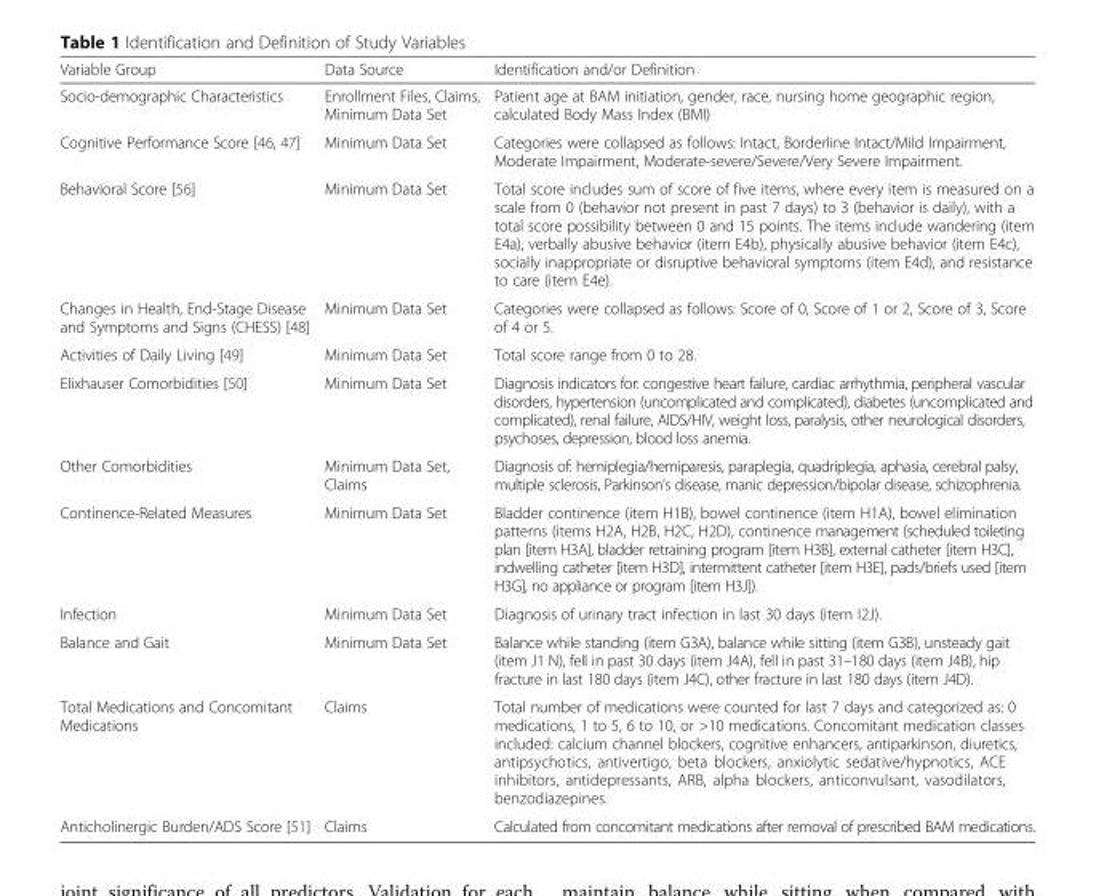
<table><thead><tr><td>Variable Group</td><td>Data Source</td><td>Identification and/or Definition</td></tr></thead><tbody><tr><td>Socio-demographic Characteristics</td><td>Enrollment Files, Claims, Minimum Data Set</td><td>Patient age at BAM initiation, gender, race, nursing home geographic region, calculated Body Mass Index (BMI)</td></tr><tr><td>Cognitive Performance Score [46, 47]</td><td>Minimum Data Set</td><td>Categories were collapsed as follows: Intact, Borderline Intact/Mild Impairment, Moderate Impairment, Moderate-severe/Severe/Very Severe Impairment.</td></tr><tr><td>Behavioral Score [56]</td><td>Minimum Data Set</td><td>Total score includes sum of score of five items, where every item is measured on a scale from 0 (behavior not present in past 7 days) to 3 (behavior is daily), with a total score possibility between 0 and 15 points. The items include wandering (item E4a), verbally abusive behavior (item E4b), physically abusive behavior (item E4c), socially inappropriate or disruptive behavioral symptoms (item E4d), and resistance to care (item E4e).</td></tr><tr><td>Changes in Health, End-Stage Disease and Symptoms and Signs (CHESS) [48]</td><td>Minimum Data Set</td><td>Categories were collapsed as follows: Score of 0, Score of 1 or 2, Score of 3, Score of 4 or 5.</td></tr><tr><td>Activities of Daily Living [49]</td><td>Minimum Data Set</td><td>Total score range from 0 to 28.</td></tr><tr><td>Elixhauser Comorbidities [50]</td><td>Minimum Data Set</td><td>Diagnosis indicators for: congestive heart failure, cardiac arrhythmia, peripheral vascular disorders, hypertension (uncomplicated and complicated), diabetes (uncomplicated and complicated), renal failure, AIDS/HIV, weight loss, paralysis, other neurological disorders, psychoses, depression, blood loss anemia.</td></tr><tr><td>Other Comorbidities</td><td>Minimum Data Set, Claims</td><td>Diagnosis of: hemiplegia/hemiparesis, paraplegia, quadriplegia, aphasia, cerebral palsy, multiple sclerosis, Parkinson’s disease, manic depression/bipolar disease, schizophrenia.</td></tr><tr><td>Continence-Related Measures</td><td>Minimum Data Set</td><td>Bladder continence (item H1B), bowel continence (item H1A), bowel elimination patterns (items H2A, H2B, H2C, H2D), continence management (scheduled toileting plan [item H3A], bladder retraining program [item H3B], external catheter [item H3C], indwelling catheter [item H3D], intermittent catheter [item H3E], pads/briefs used [item H3G], no appliance or program [item H3J]).</td></tr><tr><td>Infection</td><td>Minimum Data Set</td><td>Diagnosis of urinary tract infection in last 30 days (item I2J).</td></tr><tr><td>Balance and Gait</td><td>Minimum Data Set</td><td>Balance while standing (item G3A), balance while sitting (item G3B), unsteady gait (item J1 N), fell in past 30 days (item J4A), fell in past 31–180 days (item J4B), hip fracture in last 180 days (item J4C), other fracture in last 180 days (item J4D).</td></tr><tr><td>Total Medications and Concomitant Medications</td><td>Claims</td><td>Total number of medications were counted for last 7 days and categorized as: 0 medications, 1 to 5, 6 to 10, or &gt;10 medications. Concomitant medication classes included: calcium channel blockers, cognitive enhancers, antiparkinson, diuretics, antipsychotics, antivertigo, beta blockers, anxiolytic sedative/hypnotics, ACE inhibitors, antidepressants, ARB, alpha blockers, anticonvulsant, vasodilators, benzodiazepines.</td></tr><tr><td>Anticholinergic Burden/ADS Score [51]</td><td>Claims</td><td>Calculated from concomitant medications after removal of prescribed BAM medications.</td></tr></tbody></table>